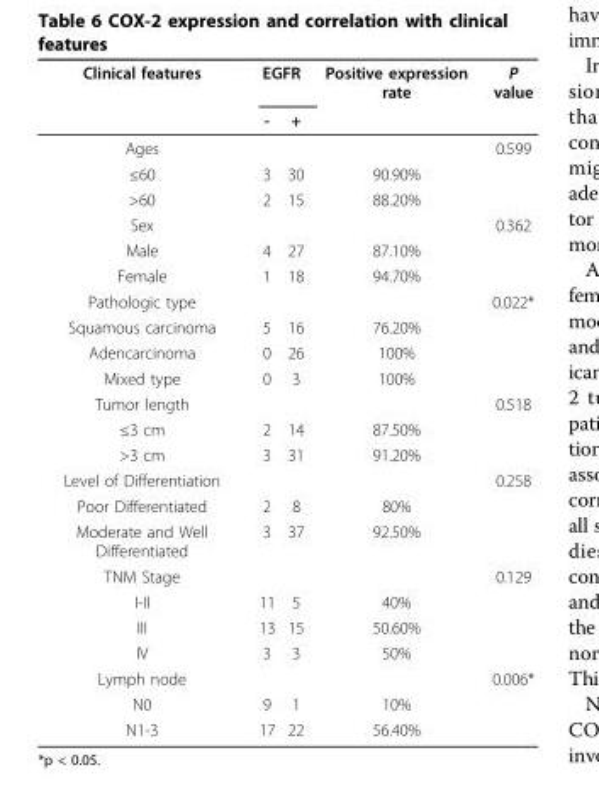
<table><thead><tr><td rowspan="2">Clinical features</td><td colspan="2">EGFR</td><td rowspan="2">Positive expression rate</td><td rowspan="2">P value</td></tr><tr><td>-</td><td>+</td></tr></thead><tbody><tr><td>Ages</td><td></td><td></td><td></td><td>0.599</td></tr><tr><td>≤60</td><td>3</td><td>30</td><td>90.90%</td><td></td></tr><tr><td>&gt;60</td><td>2</td><td>15</td><td>88.20%</td><td></td></tr><tr><td>Sex</td><td></td><td></td><td></td><td>0.362</td></tr><tr><td>Male</td><td>4</td><td>27</td><td>87.10%</td><td></td></tr><tr><td>Female</td><td>1</td><td>18</td><td>94.70%</td><td></td></tr><tr><td>Pathologic type</td><td></td><td></td><td></td><td>0.022*</td></tr><tr><td>Squamous carcinoma</td><td>5</td><td>16</td><td>76.20%</td><td></td></tr><tr><td>Adencarcinoma</td><td>0</td><td>26</td><td>100%</td><td></td></tr><tr><td>Mixed type</td><td>0</td><td>3</td><td>100%</td><td></td></tr><tr><td>Tumor length</td><td></td><td></td><td></td><td>0.518</td></tr><tr><td>≤3 cm</td><td>2</td><td>14</td><td>87.50%</td><td></td></tr><tr><td>&gt;3 cm</td><td>3</td><td>31</td><td>91.20%</td><td></td></tr><tr><td>Level of Differentiation</td><td></td><td></td><td></td><td>0.258</td></tr><tr><td>Poor Differentiated</td><td>2</td><td>8</td><td>80%</td><td></td></tr><tr><td>Moderate and Well Differentiated</td><td>3</td><td>37</td><td>92.50%</td><td></td></tr><tr><td>TNM Stage</td><td></td><td></td><td></td><td>0.129</td></tr><tr><td>I-II</td><td>11</td><td>5</td><td>40%</td><td></td></tr><tr><td>III</td><td>13</td><td>15</td><td>50.60%</td><td></td></tr><tr><td>IV</td><td>3</td><td>3</td><td>50%</td><td></td></tr><tr><td>Lymph node</td><td></td><td></td><td></td><td>0.006*</td></tr><tr><td>N0</td><td>9</td><td>1</td><td>10%</td><td></td></tr><tr><td>N1-3</td><td>17</td><td>22</td><td>56.40%</td><td></td></tr></tbody></table>